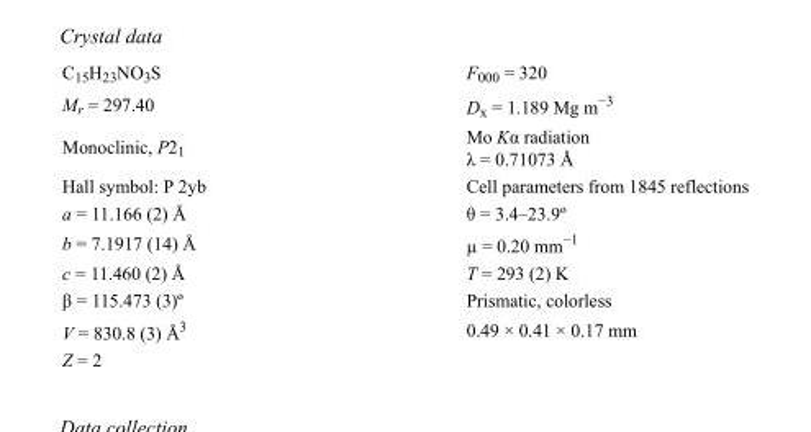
<table><tbody><tr><td>C<sub>15</sub>H<sub>23</sub>NO<sub>3</sub>S</td><td>F000 = 320</td></tr><tr><td>M<sub>r</sub> = 297.40</td><td>D<sub>x</sub> = 1.189 Mg m<sup>−3</sup></td></tr><tr><td>Monoclinic, P2<sub>1</sub></td><td>Mo Kα radiation λ = 0.71073 Å</td></tr><tr><td>Hall symbol: P 2yb</td><td>Cell parameters from 1845 reflections</td></tr><tr><td>a = 11.166 (2) Å</td><td>θ = 3.4–23.9º</td></tr><tr><td>b = 7.1917 (14) Å</td><td>µ = 0.20 mm<sup>−1</sup></td></tr><tr><td>c = 11.460 (2) Å</td><td>T = 293 (2) K</td></tr><tr><td>β = 115.473 (3)º</td><td>Prismatic, colorless</td></tr><tr><td>V = 830.8 (3) Å<sup>3</sup></td><td>0.49 × 0.41 × 0.17 mm</td></tr><tr><td>Z = 2</td><td></td></tr></tbody></table>